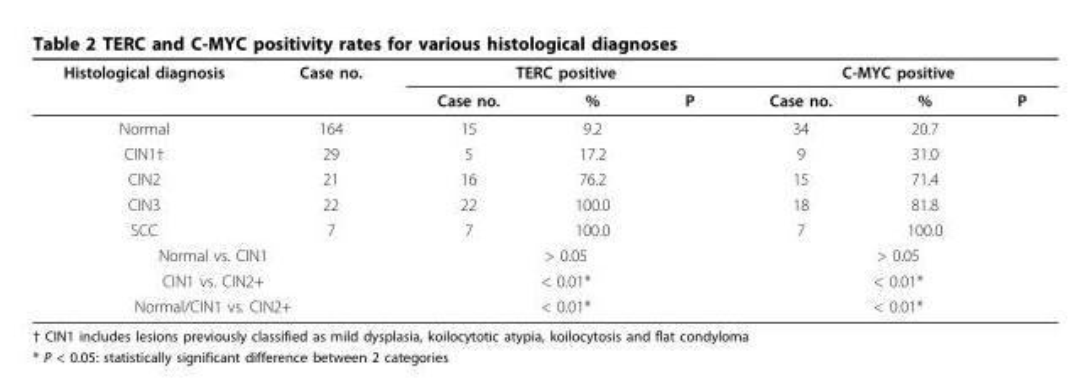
<table><thead><tr><td rowspan="2">Histological diagnosis</td><td rowspan="2">Case no.</td><td colspan="3">TERC positive</td><td colspan="3">C-MYC positive</td></tr><tr><td>Case no.</td><td>%</td><td>P</td><td>Case no.</td><td>%</td><td>P</td></tr></thead><tbody><tr><td>Normal</td><td>164</td><td>15</td><td>9.2</td><td></td><td>34</td><td>20.7</td><td></td></tr><tr><td>CIN1†</td><td>29</td><td>5</td><td>17.2</td><td></td><td>9</td><td>31.0</td><td></td></tr><tr><td>CIN2</td><td>21</td><td>16</td><td>76.2</td><td></td><td>15</td><td>71.4</td><td></td></tr><tr><td>CIN3</td><td>22</td><td>22</td><td>100.0</td><td></td><td>18</td><td>81.8</td><td></td></tr><tr><td>SCC</td><td>7</td><td>7</td><td>100.0</td><td></td><td>7</td><td>100.0</td><td></td></tr><tr><td colspan="2">Normal vs. CIN1</td><td colspan="3">&gt; 0.05</td><td colspan="3">&gt; 0.05</td></tr><tr><td colspan="2">CIN1 vs. CIN2+</td><td colspan="3">&lt; 0.01*</td><td colspan="3">&lt; 0.01*</td></tr><tr><td colspan="2">Normal/CIN1 vs. CIN2+</td><td colspan="3">&lt; 0.01*</td><td colspan="3">&lt; 0.01*</td></tr></tbody></table>